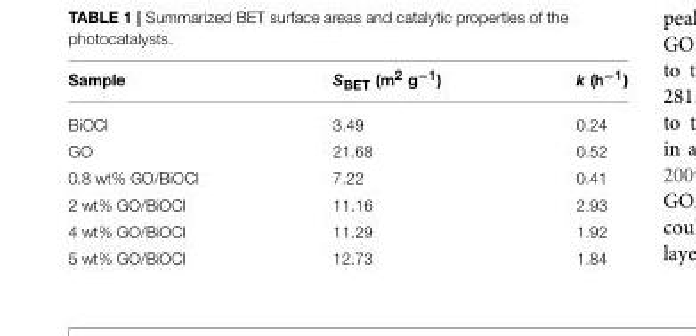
<table><thead><tr><td>Sample</td><td>S<sub>BET</sub> (m<sup>2</sup> g<sup>−1</sup>)</td><td>k (h<sup>−1</sup>)</td></tr></thead><tbody><tr><td>BiOCl</td><td>3.49</td><td>0.24</td></tr><tr><td>GO</td><td>21.68</td><td>0.52</td></tr><tr><td>0.8 wt% GO/BiOCl</td><td>7.22</td><td>0.41</td></tr><tr><td>2 wt% GO/BiOCl</td><td>11.16</td><td>2.93</td></tr><tr><td>4 wt% GO/BiOCl</td><td>11.29</td><td>1.92</td></tr><tr><td>5 wt% GO/BiOCl</td><td>12.73</td><td>1.84</td></tr></tbody></table>